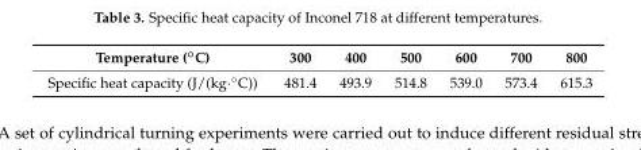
<table><thead><tr><td>Temperature (◦C)</td><td>300</td><td>400</td><td>500</td><td>600</td><td>700</td><td>800</td></tr></thead><tbody><tr><td>Specific heat capacity (J/(kg·◦C))</td><td>481.4</td><td>493.9</td><td>514.8</td><td>539.0</td><td>573.4</td><td>615.3</td></tr></tbody></table>